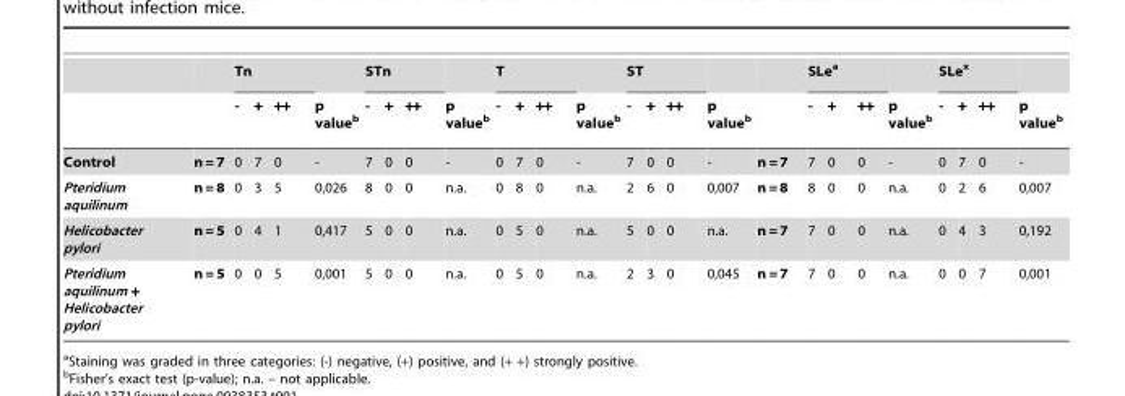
<table><thead><tr><td rowspan="2"></td><td rowspan="2"></td><td colspan="3">Tn</td><td rowspan="2">p valueb</td><td colspan="3">STn</td><td rowspan="2">p valueb</td><td colspan="3">T</td><td rowspan="2">p valueb</td><td colspan="3">ST</td><td rowspan="2">p valueb</td><td rowspan="2"></td><td colspan="3">SLea</td><td rowspan="2">p valueb</td><td colspan="3">SLe<sup>x</sup></td><td rowspan="2">p valueb</td></tr><tr><td>-</td><td>+</td><td>++</td><td>-</td><td>+</td><td>++</td><td>-</td><td>+</td><td>++</td><td>-</td><td>+</td><td>++</td><td>-</td><td>+</td><td>++</td><td>-</td><td>+</td><td>++</td></tr></thead><tbody><tr><td>Control</td><td>n = 7</td><td>0</td><td>7</td><td>0</td><td>-</td><td>7</td><td>0</td><td>0</td><td>-</td><td>0</td><td>7</td><td>0</td><td>-</td><td>7</td><td>0</td><td>0</td><td>-</td><td>n = 7</td><td>7</td><td>0</td><td>0</td><td>-</td><td>0</td><td>7</td><td>0</td><td>-</td></tr><tr><td>Pteridium aquilinum</td><td>n = 8</td><td>0</td><td>3</td><td>5</td><td>0,026</td><td>8</td><td>0</td><td>0</td><td>n.a.</td><td>0</td><td>8</td><td>0</td><td>n.a.</td><td>2</td><td>6</td><td>0</td><td>0,007</td><td>n = 8</td><td>8</td><td>0</td><td>0</td><td>n.a.</td><td>0</td><td>2</td><td>6</td><td>0,007</td></tr><tr><td>Helicobacter pylori</td><td>n = 5</td><td>0</td><td>4</td><td>1</td><td>0,417</td><td>5</td><td>0</td><td>0</td><td>n.a.</td><td>0</td><td>5</td><td>0</td><td>n.a.</td><td>5</td><td>0</td><td>0</td><td>n.a.</td><td>n = 7</td><td>7</td><td>0</td><td>0</td><td>n.a.</td><td>0</td><td>4</td><td>3</td><td>0,192</td></tr><tr><td>Pteridium aquilinum + Helicobacter pylori</td><td>n = 5</td><td>0</td><td>0</td><td>5</td><td>0,001</td><td>5</td><td>0</td><td>0</td><td>n.a.</td><td>0</td><td>5</td><td>0</td><td>n.a.</td><td>2</td><td>3</td><td>0</td><td>0,045</td><td>n = 7</td><td>7</td><td>0</td><td>0</td><td>n.a.</td><td>0</td><td>0</td><td>7</td><td>0,001</td></tr></tbody></table>